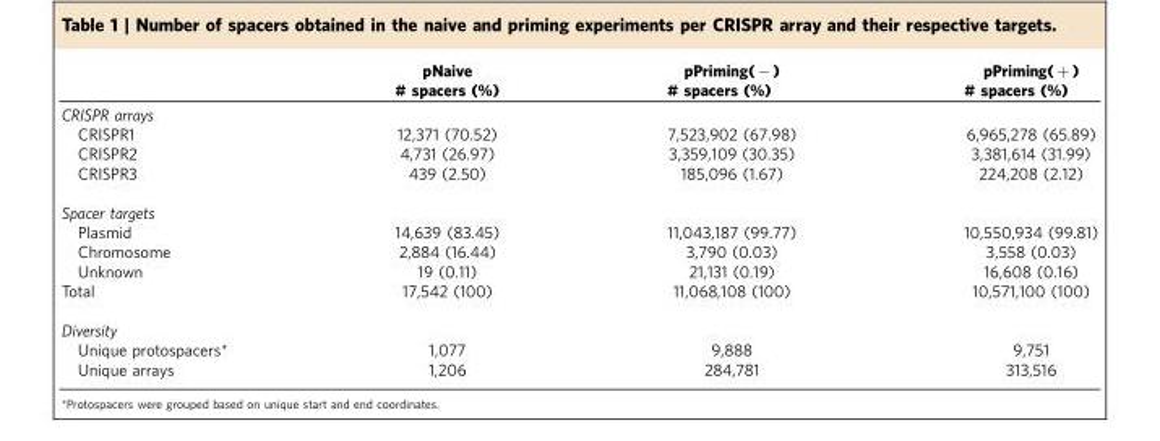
<table><thead><tr><td rowspan="2"></td><td rowspan="2">pNaive # spacers (%)</td><td rowspan="2">pPriming( − ) # spacers (%)</td><td rowspan="2">pPriming( + ) # spacers (%)</td></tr><tr></tr></thead><tbody><tr><td colspan="4">CRISPR arrays</td></tr><tr><td>CRISPR1</td><td>12,371 (70.52)</td><td>7,523,902 (67.98)</td><td>6,965,278 (65.89)</td></tr><tr><td>CRISPR2</td><td>4,731 (26.97)</td><td>3,359,109 (30.35)</td><td>3,381,614 (31.99)</td></tr><tr><td>CRISPR3</td><td>439 (2.50)</td><td>185,096 (1.67)</td><td>224,208 (2.12)</td></tr><tr><td colspan="4">Spacer targets</td></tr><tr><td>Plasmid</td><td>14,639 (83.45)</td><td>11,043,187 (99.77)</td><td>10,550,934 (99.81)</td></tr><tr><td>Chromosome</td><td>2,884 (16.44)</td><td>3,790 (0.03)</td><td>3,558 (0.03)</td></tr><tr><td>Unknown</td><td>19 (0.11)</td><td>21,131 (0.19)</td><td>16,608 (0.16)</td></tr><tr><td>Total</td><td>17,542 (100)</td><td>11,068,108 (100)</td><td>10,571,100 (100)</td></tr><tr><td colspan="4">Diversity</td></tr><tr><td>Unique protospacers*</td><td>1,077</td><td>9,888</td><td>9,751</td></tr><tr><td>Unique arrays</td><td>1,206</td><td>284,781</td><td>313,516</td></tr></tbody></table>